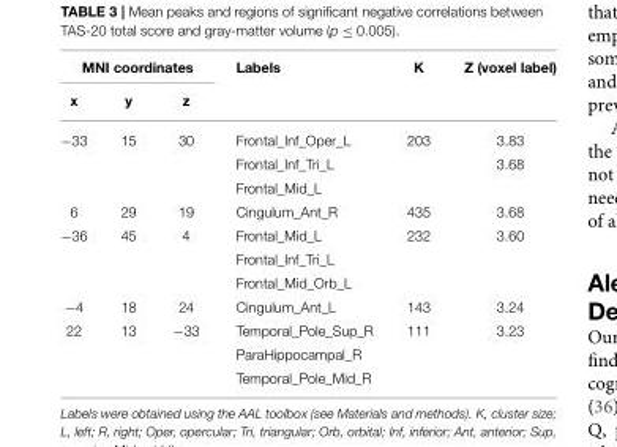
<table><thead><tr><td colspan="3">MNI coordinates</td><td rowspan="2">Labels</td><td rowspan="2">K</td><td rowspan="2">Z (voxel label)</td></tr><tr><td>x</td><td>y</td><td>z</td></tr></thead><tbody><tr><td rowspan="3">−33</td><td>15</td><td>30</td><td>Frontal_Inf_Oper_L</td><td>203</td><td>3.83</td></tr><tr><td></td><td></td><td>Frontal_Inf_Tri_L</td><td></td><td>3.68</td></tr><tr><td></td><td></td><td>Frontal_Mid_L</td><td></td><td></td></tr><tr><td>6</td><td>29</td><td>19</td><td>Cingulum_Ant_R</td><td>435</td><td>3.68</td></tr><tr><td rowspan="3">−36</td><td>45</td><td>4</td><td>Frontal_Mid_L</td><td>232</td><td>3.60</td></tr><tr><td></td><td></td><td>Frontal_Inf_Tri_L</td><td></td><td></td></tr><tr><td></td><td></td><td>Frontal_Mid_Orb_L</td><td></td><td></td></tr><tr><td>−4</td><td>18</td><td>24</td><td>Cingulum_Ant_L</td><td>143</td><td>3.24</td></tr><tr><td rowspan="3">22</td><td>13</td><td>−33</td><td>Temporal_Pole_Sup_R</td><td>111</td><td>3.23</td></tr><tr><td></td><td></td><td>ParaHippocampal_R</td><td></td><td></td></tr><tr><td></td><td></td><td>Temporal_Pole_Mid_R</td><td></td><td></td></tr></tbody></table>